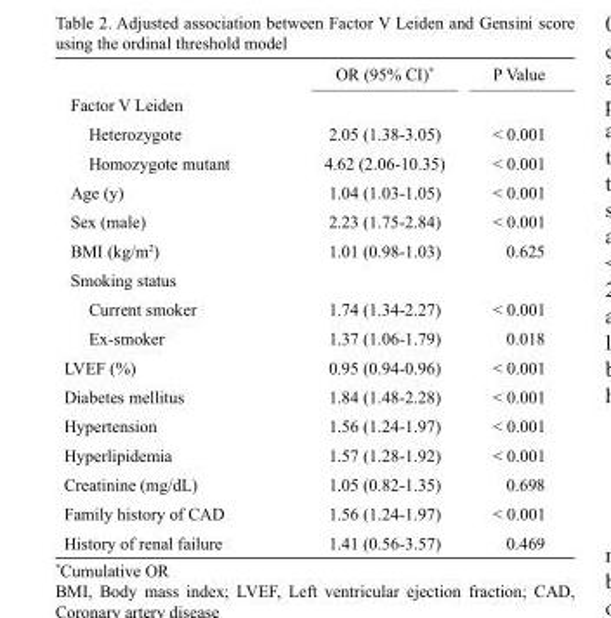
<table><thead><tr><td></td><td>OR (95% CI)*</td><td>P Value</td></tr></thead><tbody><tr><td colspan="3">Factor V Leiden</td></tr><tr><td>Heterozygote</td><td>2.05 (1.38-3.05)</td><td>&lt; 0.001</td></tr><tr><td>Homozygote mutant</td><td>4.62 (2.06-10.35)</td><td>&lt; 0.001</td></tr><tr><td>Age (y)</td><td>1.04 (1.03-1.05)</td><td>&lt; 0.001</td></tr><tr><td>Sex (male)</td><td>2.23 (1.75-2.84)</td><td>&lt; 0.001</td></tr><tr><td>BMI (kg/m<sup>2</sup>)</td><td>1.01 (0.98-1.03)</td><td>0.625</td></tr><tr><td colspan="3">Smoking status</td></tr><tr><td>Current smoker</td><td>1.74 (1.34-2.27)</td><td>&lt; 0.001</td></tr><tr><td>Ex-smoker</td><td>1.37 (1.06-1.79)</td><td>0.018</td></tr><tr><td>LVEF (%)</td><td>0.95 (0.94-0.96)</td><td>&lt; 0.001</td></tr><tr><td>Diabetes mellitus</td><td>1.84 (1.48-2.28)</td><td>&lt; 0.001</td></tr><tr><td>Hypertension</td><td>1.56 (1.24-1.97)</td><td>&lt; 0.001</td></tr><tr><td>Hyperlipidemia</td><td>1.57 (1.28-1.92)</td><td>&lt; 0.001</td></tr><tr><td>Creatinine (mg/dL)</td><td>1.05 (0.82-1.35)</td><td>0.698</td></tr><tr><td>Family history of CAD</td><td>1.56 (1.24-1.97)</td><td>&lt; 0.001</td></tr><tr><td>History of renal failure</td><td>1.41 (0.56-3.57)</td><td>0.469</td></tr></tbody></table>